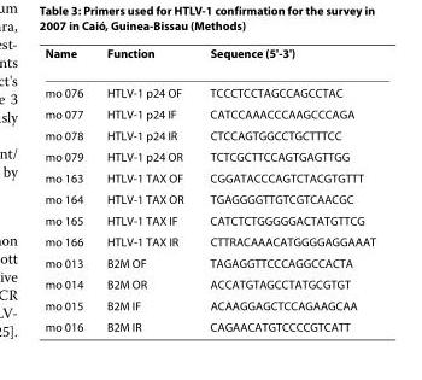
<table><thead><tr><td>Name</td><td>Function</td><td>Sequence (5&#x27;-3&#x27;)</td></tr></thead><tbody><tr><td>mo 076</td><td>HTLV-1 p24 OF</td><td>TCCCTCCTAGCCAGCCTAC</td></tr><tr><td>mo 077</td><td>HTLV-1 p24 IF</td><td>CATCCAAACCCAAGCCCAGA</td></tr><tr><td>mo 078</td><td>HTLV-1 p24 IR</td><td>CTCCAGTGGCCTGCTTTCC</td></tr><tr><td>mo 079</td><td>HTLV-1 p24 OR</td><td>TCTCGCTTCCAGTGAGTTGG</td></tr><tr><td>mo 163</td><td>HTLV-1 TAX OF</td><td>CGGATACCCAGTCTACGTGTTT</td></tr><tr><td>mo 164</td><td>HTLV-1 TAX OR</td><td>TGAGGGGTTGTCGTCAACGC</td></tr><tr><td>mo 165</td><td>HTLV-1 TAX IF</td><td>CATCTCTGGGGGACTATGTTCG</td></tr><tr><td>mo 166</td><td>HTLV-1 TAX IR</td><td>CTTRACAAACATGGGGAGGAAAT</td></tr><tr><td>mo 013</td><td>B2M OF</td><td>TAGAGGTTCCCAGGCCACTA</td></tr><tr><td>mo 014</td><td>B2M OR</td><td>ACCATGTAGCCTATGCGTGT</td></tr><tr><td>mo 015</td><td>B2M IF</td><td>ACAAGGAGCTCCAGAAGCAA</td></tr><tr><td>mo 016</td><td>B2M IR</td><td>CAGAACATGTCCCCGTCATT</td></tr></tbody></table>